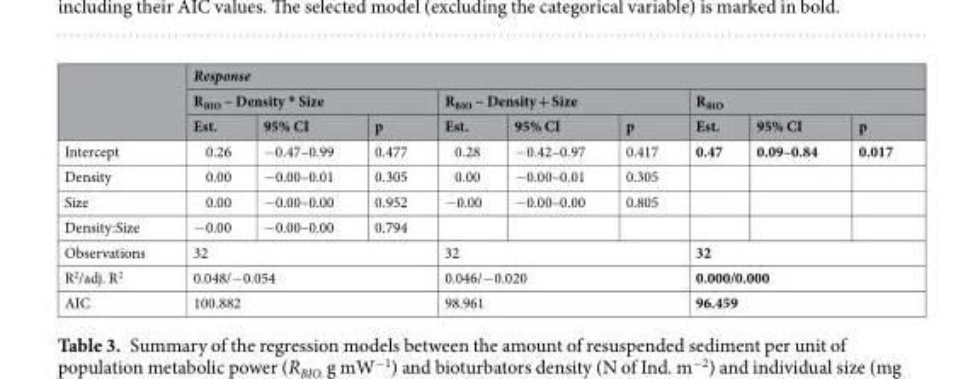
<table><thead><tr><td rowspan="3"></td><td colspan="9">Response</td></tr><tr><td colspan="3">R<sub>BIO</sub> ~ Density * Size</td><td colspan="3">R<sub>BIO</sub> ~ Density + Size</td><td colspan="3">R<sub>BIO</sub></td></tr><tr><td>Est.</td><td>95% CI</td><td>p</td><td>Est.</td><td>95% CI</td><td>p</td><td>Est.</td><td>95% CI</td><td>p</td></tr></thead><tbody><tr><td>Intercept</td><td>0.26</td><td>−0.47–0.99</td><td>0.477</td><td>0.28</td><td>−0.42–0.97</td><td>0.417</td><td>0.47</td><td>0.09–0.84</td><td>0.017</td></tr><tr><td>Density</td><td>0.00</td><td>−0.00–0.01</td><td>0.305</td><td>0.00</td><td>−0.00–0.01</td><td>0.305</td><td></td><td></td><td></td></tr><tr><td>Size</td><td>0.00</td><td>−0.00–0.00</td><td>0.952</td><td>−0.00</td><td>−0.00–0.00</td><td>0.805</td><td></td><td></td><td></td></tr><tr><td>Density:Size</td><td>−0.00</td><td>−0.00–0.00</td><td>0.794</td><td></td><td></td><td></td><td></td><td></td><td></td></tr><tr><td>Observations</td><td colspan="3">32</td><td colspan="3">32</td><td colspan="3">32</td></tr><tr><td>R<sup>2</sup>/adj. R<sup>2</sup></td><td colspan="3">0.048/−0.054</td><td colspan="3">0.046/−0.020</td><td colspan="3">0.000/0.000</td></tr><tr><td>AIC</td><td colspan="3">100.882</td><td colspan="3">98.961</td><td colspan="3">96.459</td></tr></tbody></table>